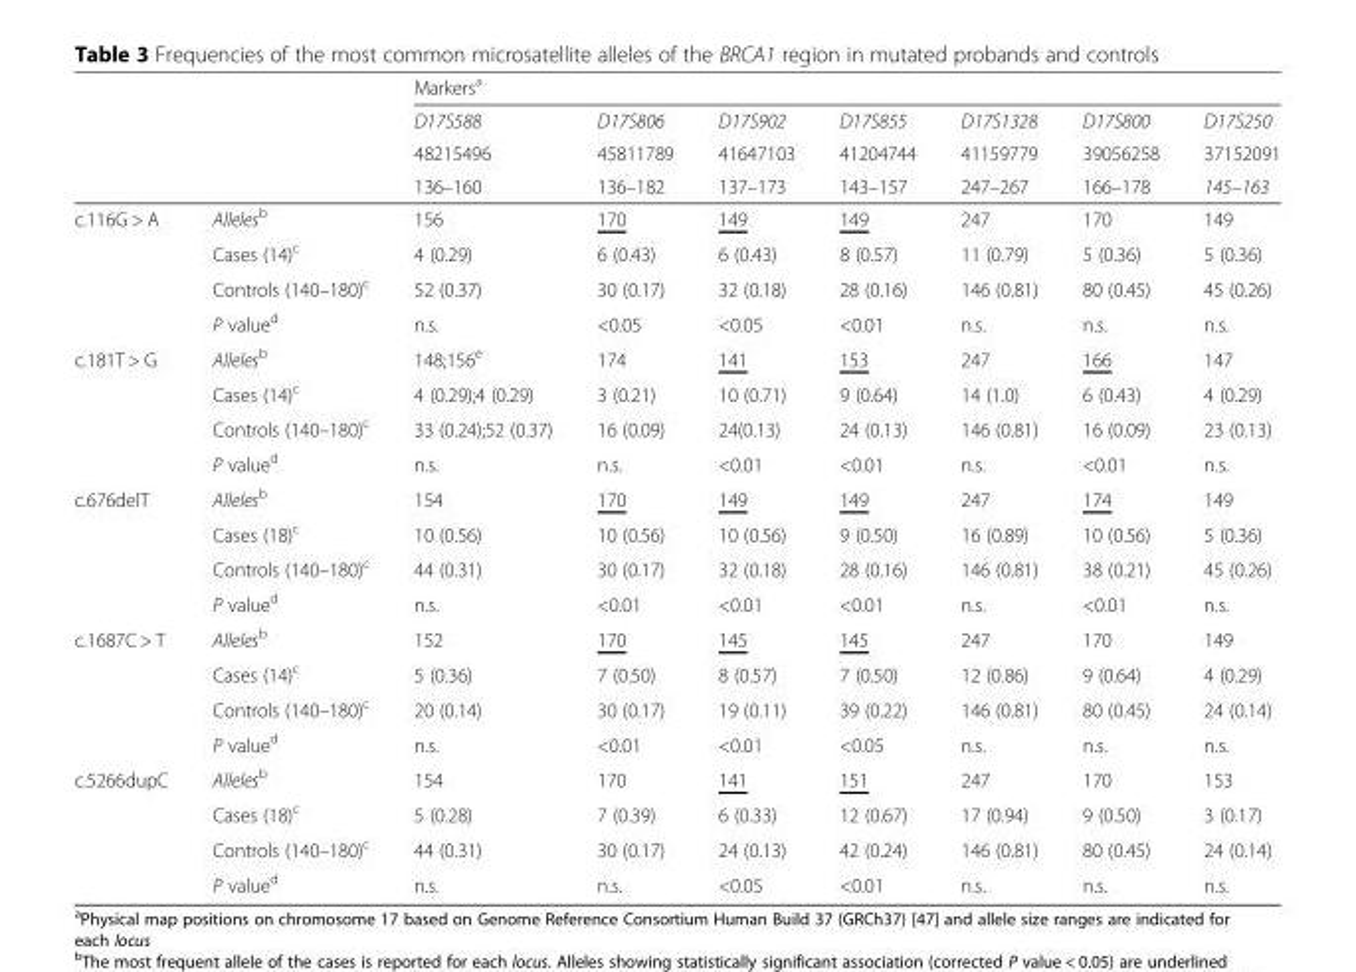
<table><thead><tr><td rowspan="4"></td><td rowspan="4"></td><td colspan="7">Markers<sup>a</sup></td></tr><tr><td rowspan="3">D17S588 48215496 136–160</td><td rowspan="3">D17S806 45811789 136–182</td><td rowspan="3">D17S902 41647103 137–173</td><td rowspan="3">D17S855 41204744 143–157</td><td rowspan="3">D17S1328 41159779 247–267</td><td rowspan="3">D17S800 39056258 166–178</td><td rowspan="3">D17S250 37152091 145–163</td></tr><tr></tr><tr></tr></thead><tbody><tr><td rowspan="4">c.116G &gt; A</td><td>Alleles<sup>b</sup></td><td>156</td><td>170</td><td>149</td><td>149</td><td>247</td><td>170</td><td>149</td></tr><tr><td>Cases (14)<sup>c</sup></td><td>4 (0.29)</td><td>6 (0.43)</td><td>6 (0.43)</td><td>8 (0.57)</td><td>11 (0.79)</td><td>5 (0.36)</td><td>5 (0.36)</td></tr><tr><td>Controls (140–180)<sup>c</sup></td><td>52 (0.37)</td><td>30 (0.17)</td><td>32 (0.18)</td><td>28 (0.16)</td><td>146 (0.81)</td><td>80 (0.45)</td><td>45 (0.26)</td></tr><tr><td>P value<sup>d</sup></td><td>n.s.</td><td>&lt;0.05</td><td>&lt;0.05</td><td>&lt;0.01</td><td>n.s.</td><td>n.s.</td><td>n.s.</td></tr><tr><td rowspan="4">c.181T &gt; G</td><td>Alleles<sup>b</sup></td><td>148;156<sup>e</sup></td><td>174</td><td>141</td><td>153</td><td>247</td><td>166</td><td>147</td></tr><tr><td>Cases (14)<sup>c</sup></td><td>4 (0.29);4 (0.29)</td><td>3 (0.21)</td><td>10 (0.71)</td><td>9 (0.64)</td><td>14 (1.0)</td><td>6 (0.43)</td><td>4 (0.29)</td></tr><tr><td>Controls (140–180)<sup>c</sup></td><td>33 (0.24);52 (0.37)</td><td>16 (0.09)</td><td>24(0.13)</td><td>24 (0.13)</td><td>146 (0.81)</td><td>16 (0.09)</td><td>23 (0.13)</td></tr><tr><td>P value<sup>d</sup></td><td>n.s.</td><td>n.s.</td><td>&lt;0.01</td><td>&lt;0.01</td><td>n.s.</td><td>&lt;0.01</td><td>n.s.</td></tr><tr><td rowspan="4">c.676delT</td><td>Alleles<sup>b</sup></td><td>154</td><td>170</td><td>149</td><td>149</td><td>247</td><td>174</td><td>149</td></tr><tr><td>Cases (18)<sup>c</sup></td><td>10 (0.56)</td><td>10 (0.56)</td><td>10 (0.56)</td><td>9 (0.50)</td><td>16 (0.89)</td><td>10 (0.56)</td><td>5 (0.36)</td></tr><tr><td>Controls (140–180)<sup>c</sup></td><td>44 (0.31)</td><td>30 (0.17)</td><td>32 (0.18)</td><td>28 (0.16)</td><td>146 (0.81)</td><td>38 (0.21)</td><td>45 (0.26)</td></tr><tr><td>P value<sup>d</sup></td><td>n.s.</td><td>&lt;0.01</td><td>&lt;0.01</td><td>&lt;0.01</td><td>n.s.</td><td>&lt;0.01</td><td>n.s.</td></tr><tr><td rowspan="4">c.1687C &gt; T</td><td>Alleles<sup>b</sup></td><td>152</td><td>170</td><td>145</td><td>145</td><td>247</td><td>170</td><td>149</td></tr><tr><td>Cases (14)<sup>c</sup></td><td>5 (0.36)</td><td>7 (0.50)</td><td>8 (0.57)</td><td>7 (0.50)</td><td>12 (0.86)</td><td>9 (0.64)</td><td>4 (0.29)</td></tr><tr><td>Controls (140–180)<sup>c</sup></td><td>20 (0.14)</td><td>30 (0.17)</td><td>19 (0.11)</td><td>39 (0.22)</td><td>146 (0.81)</td><td>80 (0.45)</td><td>24 (0.14)</td></tr><tr><td>P value<sup>d</sup></td><td>n.s.</td><td>&lt;0.01</td><td>&lt;0.01</td><td>&lt;0.05</td><td>n.s.</td><td>n.s.</td><td>n.s.</td></tr><tr><td rowspan="4">c.5266dupC</td><td>Alleles<sup>b</sup></td><td>154</td><td>170</td><td>141</td><td>151</td><td>247</td><td>170</td><td>153</td></tr><tr><td>Cases (18)<sup>c</sup></td><td>5 (0.28)</td><td>7 (0.39)</td><td>6 (0.33)</td><td>12 (0.67)</td><td>17 (0.94)</td><td>9 (0.50)</td><td>3 (0.17)</td></tr><tr><td>Controls (140–180)<sup>c</sup></td><td>44 (0.31)</td><td>30 (0.17)</td><td>24 (0.13)</td><td>42 (0.24)</td><td>146 (0.81)</td><td>80 (0.45)</td><td>24 (0.14)</td></tr><tr><td>P value<sup>d</sup></td><td>n.s.</td><td>n.s.</td><td>&lt;0.05</td><td>&lt;0.01</td><td>n.s.</td><td>n.s.</td><td>n.s.</td></tr></tbody></table>